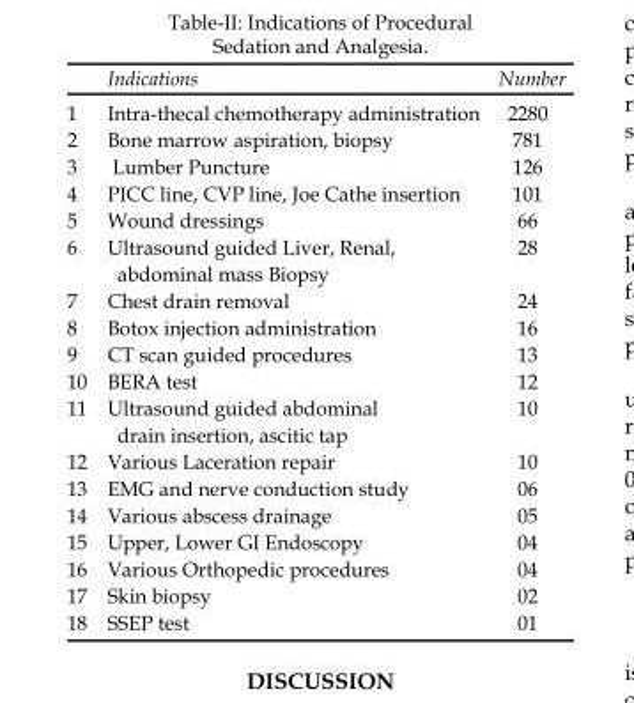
<table><thead><tr><td></td><td>Indications</td><td>Number</td></tr></thead><tbody><tr><td>1</td><td>Intra-thecal chemotherapy administration</td><td>2280</td></tr><tr><td>2</td><td>Bone marrow aspiration, biopsy</td><td>781</td></tr><tr><td>3</td><td>Lumber Puncture</td><td>126</td></tr><tr><td>4</td><td>PICC line, CVP line, Joe Cathe insertion</td><td>101</td></tr><tr><td>5</td><td>Wound dressings</td><td>66</td></tr><tr><td>6</td><td>Ultrasound guided Liver, Renal, abdominal mass Biopsy</td><td>28</td></tr><tr><td>7</td><td>Chest drain removal</td><td>24</td></tr><tr><td>8</td><td>Botox injection administration</td><td>16</td></tr><tr><td>9</td><td>CT scan guided procedures</td><td>13</td></tr><tr><td>10</td><td>BERA test</td><td>12</td></tr><tr><td>11</td><td>Ultrasound guided abdominal drain insertion, ascitic tap</td><td>10</td></tr><tr><td>12</td><td>Various Laceration repair</td><td>10</td></tr><tr><td>13</td><td>EMG and nerve conduction study</td><td>06</td></tr><tr><td>14</td><td>Various abscess drainage</td><td>05</td></tr><tr><td>15</td><td>Upper, Lower GI Endoscopy</td><td>04</td></tr><tr><td>16</td><td>Various Orthopedic procedures</td><td>04</td></tr><tr><td>17</td><td>Skin biopsy</td><td>02</td></tr><tr><td>18</td><td>SSEP test</td><td>01</td></tr></tbody></table>